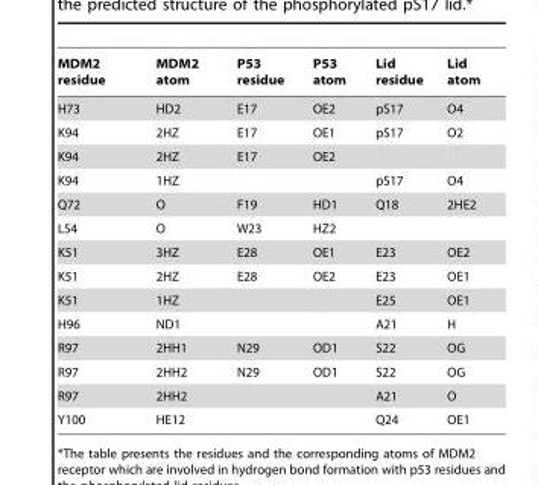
<table><thead><tr><td>MDM2 residue</td><td>MDM2 atom</td><td>P53 residue</td><td>P53 atom</td><td>Lid residue</td><td>Lid atom</td></tr></thead><tbody><tr><td>H73</td><td>HD2</td><td>E17</td><td>OE2</td><td>pS17</td><td>O4</td></tr><tr><td>K94</td><td>2HZ</td><td>E17</td><td>OE1</td><td>pS17</td><td>O2</td></tr><tr><td>K94</td><td>2HZ</td><td>E17</td><td>OE2</td><td></td><td></td></tr><tr><td>K94</td><td>1HZ</td><td></td><td></td><td>pS17</td><td>O4</td></tr><tr><td>Q72</td><td>O</td><td>F19</td><td>HD1</td><td>Q18</td><td>2HE2</td></tr><tr><td>L54</td><td>O</td><td>W23</td><td>HZ2</td><td></td><td></td></tr><tr><td>K51</td><td>3HZ</td><td>E28</td><td>OE1</td><td>E23</td><td>OE2</td></tr><tr><td>K51</td><td>2HZ</td><td>E28</td><td>OE2</td><td>E23</td><td>OE1</td></tr><tr><td>K51</td><td>1HZ</td><td></td><td></td><td>E25</td><td>OE1</td></tr><tr><td>H96</td><td>ND1</td><td></td><td></td><td>A21</td><td>H</td></tr><tr><td>R97</td><td>2HH1</td><td>N29</td><td>OD1</td><td>S22</td><td>OG</td></tr><tr><td>R97</td><td>2HH2</td><td>N29</td><td>OD1</td><td>S22</td><td>OG</td></tr><tr><td>R97</td><td>2HH2</td><td></td><td></td><td>A21</td><td>O</td></tr><tr><td>Y100</td><td>HE12</td><td></td><td></td><td>Q24</td><td>OE1</td></tr></tbody></table>